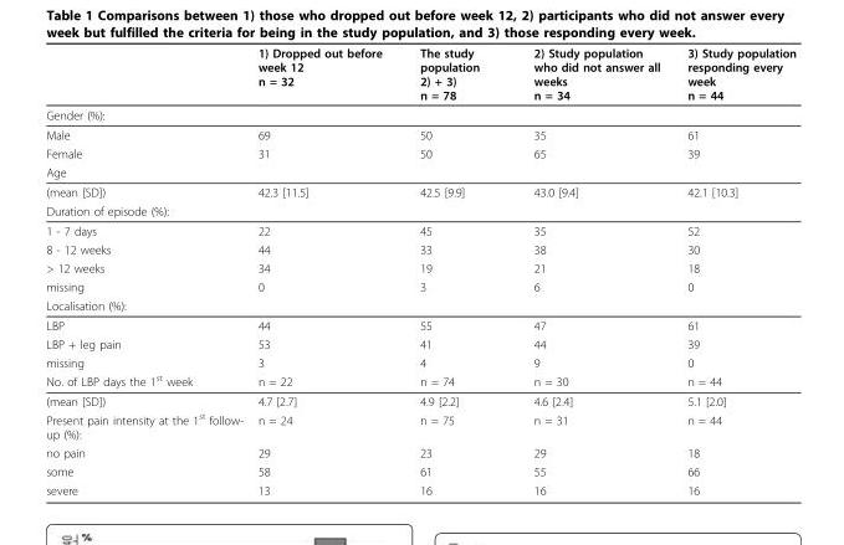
<table><thead><tr><td></td><td>1) Dropped out before week 12 n = 32</td><td>The study population 2) + 3) n = 78</td><td>2) Study population who did not answer all weeks n = 34</td><td>3) Study population responding every week n = 44</td></tr></thead><tbody><tr><td colspan="5">Gender (%):</td></tr><tr><td>Male</td><td>69</td><td>50</td><td>35</td><td>61</td></tr><tr><td>Female</td><td>31</td><td>50</td><td>65</td><td>39</td></tr><tr><td colspan="5">Age</td></tr><tr><td>(mean [SD])</td><td>42.3 [11.5]</td><td>42.5 [9.9]</td><td>43.0 [9.4]</td><td>42.1 [10.3]</td></tr><tr><td colspan="5">Duration of episode (%):</td></tr><tr><td>1 - 7 days</td><td>22</td><td>45</td><td>35</td><td>52</td></tr><tr><td>8 - 12 weeks</td><td>44</td><td>33</td><td>38</td><td>30</td></tr><tr><td>&gt; 12 weeks</td><td>34</td><td>19</td><td>21</td><td>18</td></tr><tr><td>missing</td><td>0</td><td>3</td><td>6</td><td>0</td></tr><tr><td colspan="5">Localisation (%):</td></tr><tr><td>LBP</td><td>44</td><td>55</td><td>47</td><td>61</td></tr><tr><td>LBP + leg pain</td><td>53</td><td>41</td><td>44</td><td>39</td></tr><tr><td>missing</td><td>3</td><td>4</td><td>9</td><td>0</td></tr><tr><td>No. of LBP days the 1<sup>st</sup> week</td><td>n = 22</td><td>n = 74</td><td>n = 30</td><td>n = 44</td></tr><tr><td>(mean [SD])</td><td>4.7 [2.7]</td><td>4.9 [2.2]</td><td>4.6 [2.4]</td><td>5.1 [2.0]</td></tr><tr><td>Present pain intensity at the 1<sup>st</sup> follow- up (%):</td><td>n = 24</td><td>n = 75</td><td>n = 31</td><td>n = 44</td></tr><tr><td>no pain</td><td>29</td><td>23</td><td>29</td><td>18</td></tr><tr><td>some</td><td>58</td><td>61</td><td>55</td><td>66</td></tr><tr><td>severe</td><td>13</td><td>16</td><td>16</td><td>16</td></tr></tbody></table>